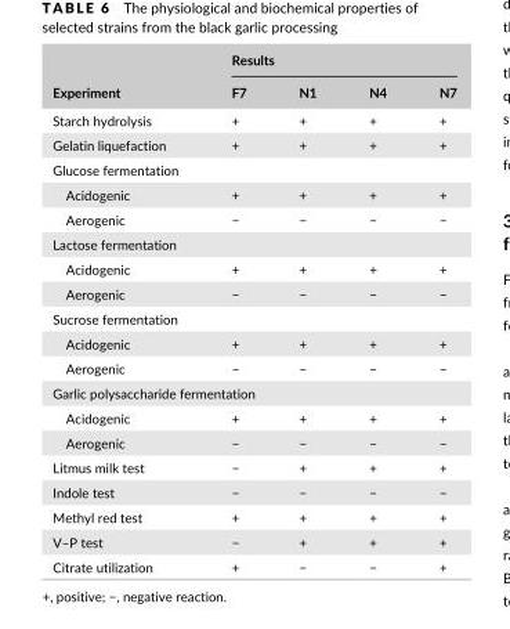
<table><thead><tr><td rowspan="2">Experiment</td><td colspan="4">Results</td></tr><tr><td>F7</td><td>N1</td><td>N4</td><td>N7</td></tr></thead><tbody><tr><td>Starch hydrolysis</td><td>+</td><td>+</td><td>+</td><td>+</td></tr><tr><td>Gelatin liquefaction</td><td>+</td><td>+</td><td>+</td><td>+</td></tr><tr><td colspan="5">Glucose fermentation</td></tr><tr><td>Acidogenic</td><td>+</td><td>+</td><td>+</td><td>+</td></tr><tr><td>Aerogenic</td><td>−</td><td>−</td><td>−</td><td>−</td></tr><tr><td colspan="5">Lactose fermentation</td></tr><tr><td>Acidogenic</td><td>+</td><td>+</td><td>+</td><td>+</td></tr><tr><td>Aerogenic</td><td>−</td><td>−</td><td>−</td><td>−</td></tr><tr><td colspan="5">Sucrose fermentation</td></tr><tr><td>Acidogenic</td><td>+</td><td>+</td><td>+</td><td>+</td></tr><tr><td>Aerogenic</td><td>−</td><td>−</td><td>−</td><td>−</td></tr><tr><td colspan="5">Garlic polysaccharide fermentation</td></tr><tr><td>Acidogenic</td><td>+</td><td>+</td><td>+</td><td>+</td></tr><tr><td>Aerogenic</td><td>−</td><td>−</td><td>−</td><td>−</td></tr><tr><td>Litmus milk test</td><td>−</td><td>+</td><td>+</td><td>+</td></tr><tr><td>Indole test</td><td>−</td><td>−</td><td>−</td><td>−</td></tr><tr><td>Methyl red test</td><td>+</td><td>+</td><td>+</td><td>+</td></tr><tr><td>V–P test</td><td>−</td><td>+</td><td>+</td><td>+</td></tr><tr><td>Citrate utilization</td><td>+</td><td>−</td><td>−</td><td>+</td></tr></tbody></table>